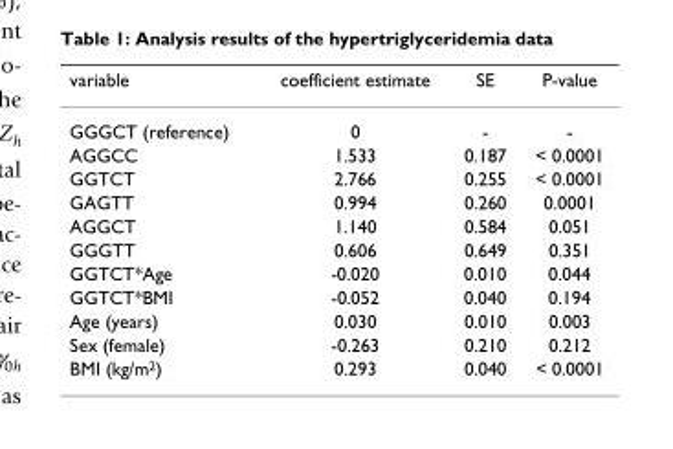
<table><thead><tr><td>variable</td><td>coefficient estimate</td><td>SE</td><td>P-value</td></tr></thead><tbody><tr><td>GGGCT (reference)</td><td>0</td><td>-</td><td>-</td></tr><tr><td>AGGCC</td><td>1.533</td><td>0.187</td><td>&lt; 0.0001</td></tr><tr><td>GGTCT</td><td>2.766</td><td>0.255</td><td>&lt; 0.0001</td></tr><tr><td>GAGTT</td><td>0.994</td><td>0.260</td><td>0.0001</td></tr><tr><td>AGGCT</td><td>1.140</td><td>0.584</td><td>0.051</td></tr><tr><td>GGGTT</td><td>0.606</td><td>0.649</td><td>0.351</td></tr><tr><td>GGTCT*Age</td><td>-0.020</td><td>0.010</td><td>0.044</td></tr><tr><td>GGTCT*BMI</td><td>-0.052</td><td>0.040</td><td>0.194</td></tr><tr><td>Age (years)</td><td>0.030</td><td>0.010</td><td>0.003</td></tr><tr><td>Sex (female)</td><td>-0.263</td><td>0.210</td><td>0.212</td></tr><tr><td>BMI (kg/m<sup>2</sup>)</td><td>0.293</td><td>0.040</td><td>&lt; 0.0001</td></tr></tbody></table>